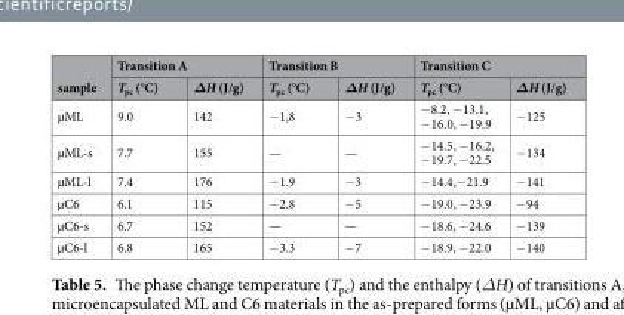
<table><thead><tr><td rowspan="2">sample</td><td colspan="2">Transition A</td><td colspan="2">Transition B</td><td colspan="2">Transition C</td></tr><tr><td>T<sub>pc</sub> (°C)</td><td>ΔH (J/g)</td><td>T<sub>pc</sub> (°C)</td><td>ΔH (J/g)</td><td>T<sub>pc</sub> (°C)</td><td>ΔH (J/g)</td></tr></thead><tbody><tr><td>µML</td><td>9.0</td><td>142</td><td>−1,8</td><td>−3</td><td>−8.2, −13.1, −16.0, −19.9</td><td>−125</td></tr><tr><td>µML-s</td><td>7.7</td><td>155</td><td>—</td><td>—</td><td>−14.5, −16.2, −19.7, −22.5</td><td>−134</td></tr><tr><td>µML-l</td><td>7.4</td><td>176</td><td>−1.9</td><td>−3</td><td>−14.4,−21.9</td><td>−141</td></tr><tr><td>µC6</td><td>6.1</td><td>115</td><td>−2.8</td><td>−5</td><td>−19.0, −23.9</td><td>−94</td></tr><tr><td>µC6-s</td><td>6.7</td><td>152</td><td>—</td><td>—</td><td>−18.6, −24.6</td><td>−139</td></tr><tr><td>µC6-l</td><td>6.8</td><td>165</td><td>−3.3</td><td>−7</td><td>−18.9, −22.0</td><td>−140</td></tr></tbody></table>